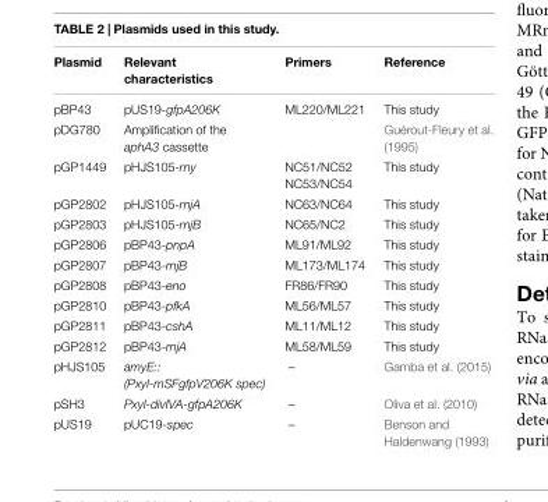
<table><thead><tr><td>Plasmid</td><td>Relevant characteristics</td><td>Primers</td><td>Reference</td></tr></thead><tbody><tr><td>pBP43</td><td>pUS19-gfpA206K</td><td>ML220/ML221</td><td>This study</td></tr><tr><td>pDG780</td><td>Amplification of the aphA3 cassette</td><td></td><td>Guérout-Fleury et al. (1995)</td></tr><tr><td>pGP1449</td><td>pHJS105-rny</td><td>NC51/NC52 NC53/NC54</td><td>This study</td></tr><tr><td>pGP2802</td><td>pHJS105-rnjA</td><td>NC63/NC64</td><td>This study</td></tr><tr><td>pGP2803</td><td>pHJS105-rnjB</td><td>NC65/NC2</td><td>This study</td></tr><tr><td>pGP2806</td><td>pBP43-pnpA</td><td>ML91/ML92</td><td>This study</td></tr><tr><td>pGP2807</td><td>pBP43-rnjB</td><td>ML173/ML174</td><td>This study</td></tr><tr><td>pGP2808</td><td>pBP43-eno</td><td>FR86/FR90</td><td>This study</td></tr><tr><td>pGP2810</td><td>pBP43-pfkA</td><td>ML56/ML57</td><td>This study</td></tr><tr><td>pGP2811</td><td>pBP43-cshA</td><td>ML11/ML12</td><td>This study</td></tr><tr><td>pGP2812</td><td>pBP43-rnjA</td><td>ML58/ML59</td><td>This study</td></tr><tr><td>pHJS105</td><td>amyE:: (Pxyl-mSFgfpV206K spec)</td><td>–</td><td>Gamba et al. (2015)</td></tr><tr><td>pSH3</td><td>Pxyl-divIVA-gfpA206K</td><td>–</td><td>Oliva et al. (2010)</td></tr><tr><td>pUS19</td><td>pUC19-spec</td><td>–</td><td>Benson and Haldenwang (1993)</td></tr></tbody></table>